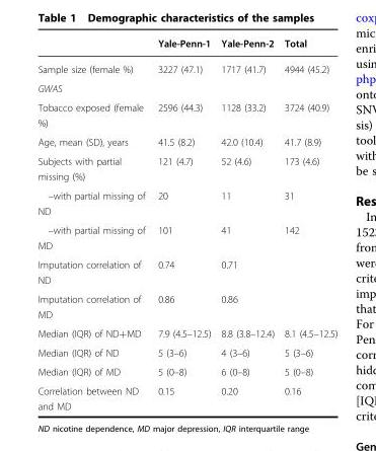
<table><thead><tr><td></td><td>Yale-Penn-1</td><td>Yale-Penn-2</td><td>Total</td></tr></thead><tbody><tr><td>Sample size (female %)</td><td>3227 (47.1)</td><td>1717 (41.7)</td><td>4944 (45.2)</td></tr><tr><td colspan="4">GWAS</td></tr><tr><td>Tobacco exposed (female %)</td><td>2596 (44.3)</td><td>1128 (33.2)</td><td>3724 (40.9)</td></tr><tr><td>Age, mean (SD), years</td><td>41.5 (8.2)</td><td>42.0 (10.4)</td><td>41.7 (8.9)</td></tr><tr><td>Subjects with partial missing (%)</td><td>121 (4.7)</td><td>52 (4.6)</td><td>173 (4.6)</td></tr><tr><td>–with partial missing of ND</td><td>20</td><td>11</td><td>31</td></tr><tr><td>–with partial missing of MD</td><td>101</td><td>41</td><td>142</td></tr><tr><td>Imputation correlation of ND</td><td>0.74</td><td>0.71</td><td></td></tr><tr><td>Imputation correlation of MD</td><td>0.86</td><td>0.86</td><td></td></tr><tr><td>Median (IQR) of ND+MD</td><td>7.9 (4.5–12.5)</td><td>8.8 (3.8–12.4)</td><td>8.1 (4.5–12.5)</td></tr><tr><td>Median (IQR) of ND</td><td>5 (3–6)</td><td>4 (3–6)</td><td>5 (3–6)</td></tr><tr><td>Median (IQR) of MD</td><td>5 (0–8)</td><td>6 (0–8)</td><td>5 (0–8)</td></tr><tr><td>Correlation between ND and MD</td><td>0.15</td><td>0.20</td><td>0.16</td></tr></tbody></table>